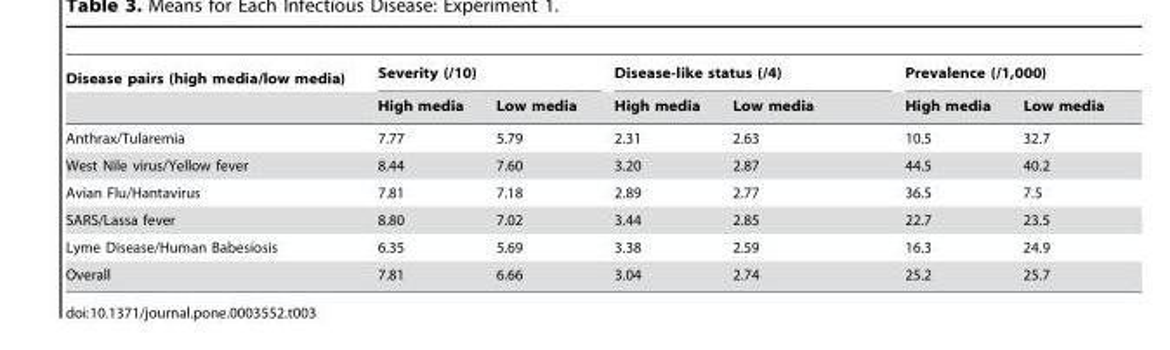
<table><thead><tr><td rowspan="2">Disease pairs (high media/low media)</td><td colspan="2">Severity (/10)</td><td colspan="2">Disease-like status (/4)</td><td colspan="2">Prevalence (/1,000)</td></tr><tr><td>High media</td><td>Low media</td><td>High media</td><td>Low media</td><td>High media</td><td>Low media</td></tr></thead><tbody><tr><td>Anthrax/Tularemia</td><td>7.77</td><td>5.79</td><td>2.31</td><td>2.63</td><td>10.5</td><td>32.7</td></tr><tr><td>West Nile virus/Yellow fever</td><td>8.44</td><td>7.60</td><td>3.20</td><td>2.87</td><td>44.5</td><td>40.2</td></tr><tr><td>Avian Flu/Hantavirus</td><td>7.81</td><td>7.18</td><td>2.89</td><td>2.77</td><td>36.5</td><td>7.5</td></tr><tr><td>SARS/Lassa fever</td><td>8.80</td><td>7.02</td><td>3.44</td><td>2.85</td><td>22.7</td><td>23.5</td></tr><tr><td>Lyme Disease/Human Babesiosis</td><td>6.35</td><td>5.69</td><td>3.38</td><td>2.59</td><td>16.3</td><td>24.9</td></tr><tr><td>Overall</td><td>7.81</td><td>6.66</td><td>3.04</td><td>2.74</td><td>25.2</td><td>25.7</td></tr></tbody></table>